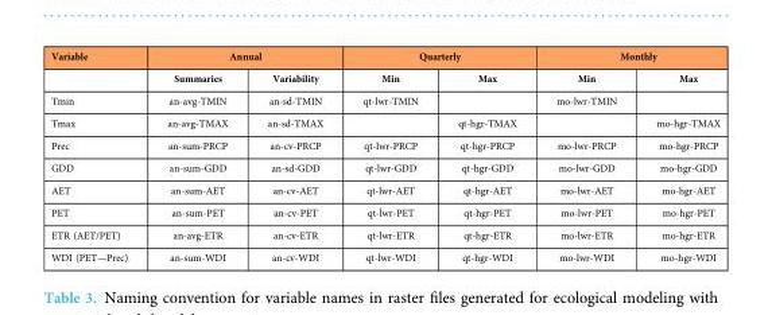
<table><thead><tr><td rowspan="2">Variable</td><td colspan="2">Annual</td><td colspan="2">Quarterly</td><td colspan="2">Monthly</td></tr><tr><td>Summaries</td><td>Variability</td><td>Min</td><td>Max</td><td>Min</td><td>Max</td></tr></thead><tbody><tr><td>Tmin</td><td>an-avg-TMIN</td><td>an-sd-TMIN</td><td>qt-lwr-TMIN</td><td></td><td>mo-lwr-TMIN</td><td></td></tr><tr><td>Tmax</td><td>an-avg-TMAX</td><td>an-sd-TMAX</td><td></td><td>qt-hgr-TMAX</td><td></td><td>mo-hgr-TMAX</td></tr><tr><td>Prec</td><td>an-sum-PRCP</td><td>an-cv-PRCP</td><td>qt-lwr-PRCP</td><td>qt-hgr-PRCP</td><td>mo-lwr-PRCP</td><td>mo-hgr-PRCP</td></tr><tr><td>GDD</td><td>an-sum-GDD</td><td>an-sd-GDD</td><td>qt-lwr-GDD</td><td>qt-hgr-GDD</td><td>mo-lwr-GDD</td><td>mo-hgr-GDD</td></tr><tr><td>AET</td><td>an-sum-AET</td><td>an-cv-AET</td><td>qt-lwr-AET</td><td>qt-hgr-AET</td><td>mo-lwr-AET</td><td>mo-hgr-AET</td></tr><tr><td>PET</td><td>an-sum-PET</td><td>an-cv-PET</td><td>qt-lwr-PET</td><td>qt-hgr-PET</td><td>mo-lwr-PET</td><td>mo-hgr-PET</td></tr><tr><td>ETR (AET/PET)</td><td>an-avg-ETR</td><td>an-cv-ETR</td><td>qt-lwr-ETR</td><td>qt-hgr-ETR</td><td>mo-lwr-ETR</td><td>mo-hgr-ETR</td></tr><tr><td>WDI (PET—Prec)</td><td>an-sum-WDI</td><td>an-cv-WDI</td><td>qt-lwr-WDI</td><td>qt-hgr-WDI</td><td>mo-lwr-WDI</td><td>mo-hgr-WDI</td></tr></tbody></table>